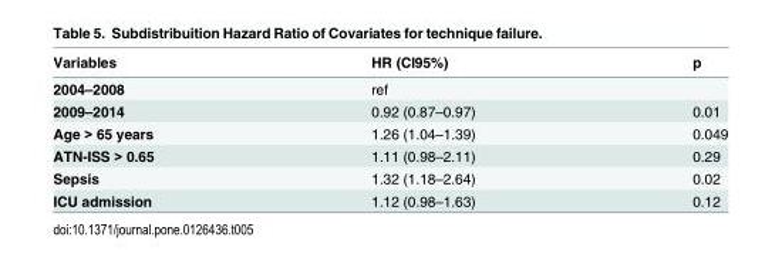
<table><thead><tr><td>Variables</td><td>HR (CI95%)</td><td>p</td></tr></thead><tbody><tr><td>2004–2008</td><td>ref</td><td></td></tr><tr><td>2009–2014</td><td>0.92 (0.87–0.97)</td><td>0.01</td></tr><tr><td>Age &gt; 65 years</td><td>1.26 (1.04–1.39)</td><td>0.049</td></tr><tr><td>ATN-ISS &gt; 0.65</td><td>1.11 (0.98–2.11)</td><td>0.29</td></tr><tr><td>Sepsis</td><td>1.32 (1.18–2.64)</td><td>0.02</td></tr><tr><td>ICU admission</td><td>1.12 (0.98–1.63)</td><td>0.12</td></tr></tbody></table>